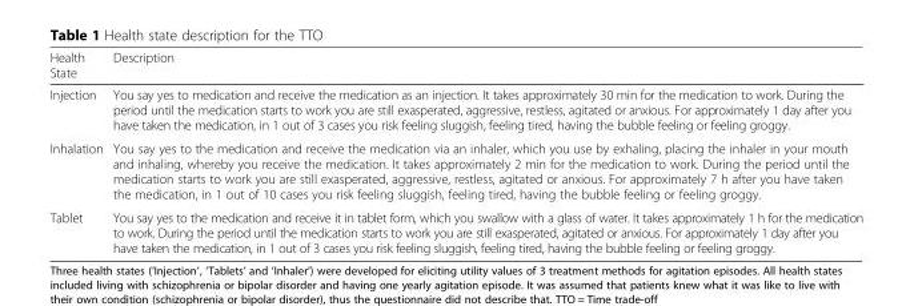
<table><thead><tr><td>Health State</td><td>Description</td></tr></thead><tbody><tr><td>Injection</td><td>You say yes to medication and receive the medication as an injection. It takes approximately 30 min for the medication to work. During the period until the medication starts to work you are still exasperated, aggressive, restless, agitated or anxious. For approximately 1 day after you have taken the medication, in 1 out of 3 cases you risk feeling sluggish, feeling tired, having the bubble feeling or feeling groggy.</td></tr><tr><td>Inhalation</td><td>You say yes to the medication and receive the medication via an inhaler, which you use by exhaling, placing the inhaler in your mouth and inhaling, whereby you receive the medication. It takes approximately 2 min for the medication to work. During the period until the medication starts to work you are still exasperated, aggressive, restless, agitated or anxious. For approximately 7 h after you have taken the medication, in 1 out of 10 cases you risk feeling sluggish, feeling tired, having the bubble feeling or feeling groggy.</td></tr><tr><td>Tablet</td><td>You say yes to the medication and receive it in tablet form, which you swallow with a glass of water. It takes approximately 1 h for the medication to work. During the period until the medication starts to work you are still exasperated, agitated or anxious. For approximately 1 day after you have taken the medication, in 1 out of 3 cases you risk feeling sluggish, feeling tired, having the bubble feeling or feeling groggy.</td></tr></tbody></table>